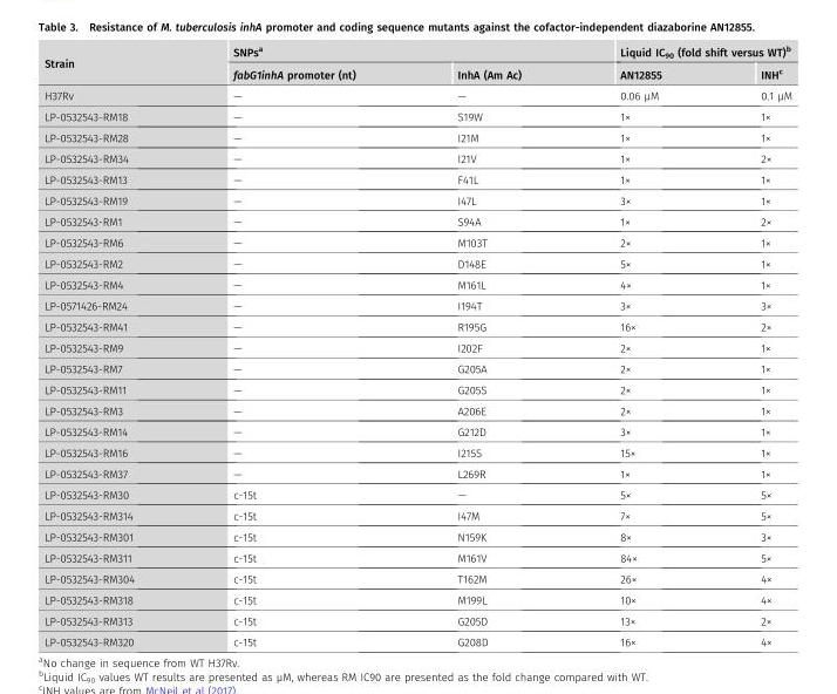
<table><thead><tr><td rowspan="2">Strain</td><td colspan="2">SNPs<sup>a</sup></td><td colspan="2">Liquid IC<sub>90</sub> (fold shift versus WT)<sup>b</sup></td></tr><tr><td>fabG1inhA promoter (nt)</td><td>InhA (Am Ac)</td><td>AN12855</td><td>INH<sup>c</sup></td></tr></thead><tbody><tr><td>H37Rv</td><td>—</td><td>—</td><td>0.06 μM</td><td>0.1 μM</td></tr><tr><td>LP-0532543-RM18</td><td>—</td><td>S19W</td><td>1×</td><td>1×</td></tr><tr><td>LP-0532543-RM28</td><td>—</td><td>I21M</td><td>1×</td><td>1×</td></tr><tr><td>LP-0532543-RM34</td><td>—</td><td>I21V</td><td>1×</td><td>2×</td></tr><tr><td>LP-0532543-RM13</td><td>—</td><td>F41L</td><td>1×</td><td>1×</td></tr><tr><td>LP-0532543-RM19</td><td>—</td><td>I47L</td><td>3×</td><td>1×</td></tr><tr><td>LP-0532543-RM1</td><td>—</td><td>S94A</td><td>1×</td><td>2×</td></tr><tr><td>LP-0532543-RM6</td><td>—</td><td>M103T</td><td>2×</td><td>1×</td></tr><tr><td>LP-0532543-RM2</td><td>—</td><td>D148E</td><td>5×</td><td>1×</td></tr><tr><td>LP-0532543-RM4</td><td>—</td><td>M161L</td><td>4×</td><td>1×</td></tr><tr><td>LP-0571426-RM24</td><td>—</td><td>I194T</td><td>3×</td><td>3×</td></tr><tr><td>LP-0532543-RM41</td><td>—</td><td>R195G</td><td>16×</td><td>2×</td></tr><tr><td>LP-0532543-RM9</td><td>—</td><td>I202F</td><td>2×</td><td>1×</td></tr><tr><td>LP-0532543-RM7</td><td>—</td><td>G205A</td><td>2×</td><td>1×</td></tr><tr><td>LP-0532543-RM11</td><td>—</td><td>G205S</td><td>2×</td><td>1×</td></tr><tr><td>LP-0532543-RM3</td><td>—</td><td>A206E</td><td>2×</td><td>1×</td></tr><tr><td>LP-0532543-RM14</td><td>—</td><td>G212D</td><td>3×</td><td>1×</td></tr><tr><td>LP-0532543-RM16</td><td>—</td><td>I215S</td><td>15×</td><td>1×</td></tr><tr><td>LP-0532543-RM37</td><td>—</td><td>L269R</td><td>1×</td><td>1×</td></tr><tr><td>LP-0532543-RM30</td><td>c-15t</td><td>—</td><td>5×</td><td>5×</td></tr><tr><td>LP-0532543-RM314</td><td>c-15t</td><td>I47M</td><td>7×</td><td>5×</td></tr><tr><td>LP-0532543-RM301</td><td>c-15t</td><td>N159K</td><td>8×</td><td>3×</td></tr><tr><td>LP-0532543-RM311</td><td>c-15t</td><td>M161V</td><td>84×</td><td>5×</td></tr><tr><td>LP-0532543-RM304</td><td>c-15t</td><td>T162M</td><td>26×</td><td>4×</td></tr><tr><td>LP-0532543-RM318</td><td>c-15t</td><td>M199L</td><td>10×</td><td>4×</td></tr><tr><td>LP-0532543-RM313</td><td>c-15t</td><td>G205D</td><td>13×</td><td>2×</td></tr><tr><td>LP-0532543-RM320</td><td>c-15t</td><td>G208D</td><td>16×</td><td>4×</td></tr></tbody></table>